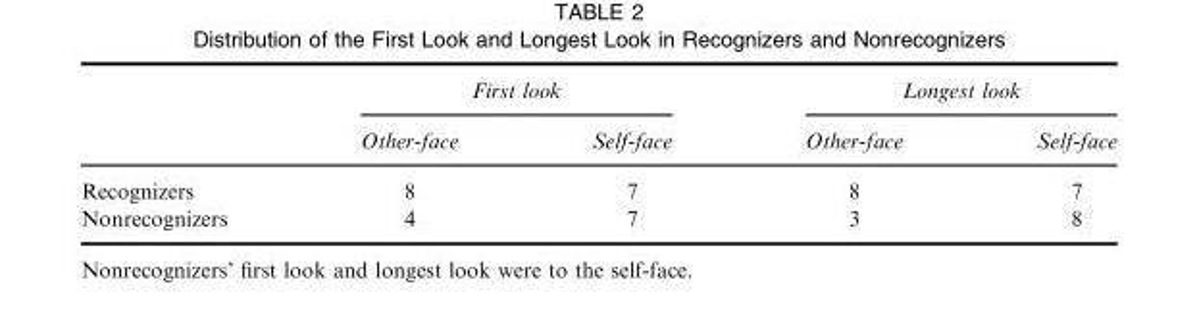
<table><thead><tr><td rowspan="2"></td><td colspan="2">First look</td><td colspan="2">Longest look</td></tr><tr><td>Other-face</td><td>Self-face</td><td>Other-face</td><td>Self-face</td></tr></thead><tbody><tr><td>Recognizers</td><td>8</td><td>7</td><td>8</td><td>7</td></tr><tr><td>Nonrecognizers</td><td>4</td><td>7</td><td>3</td><td>8</td></tr></tbody></table>